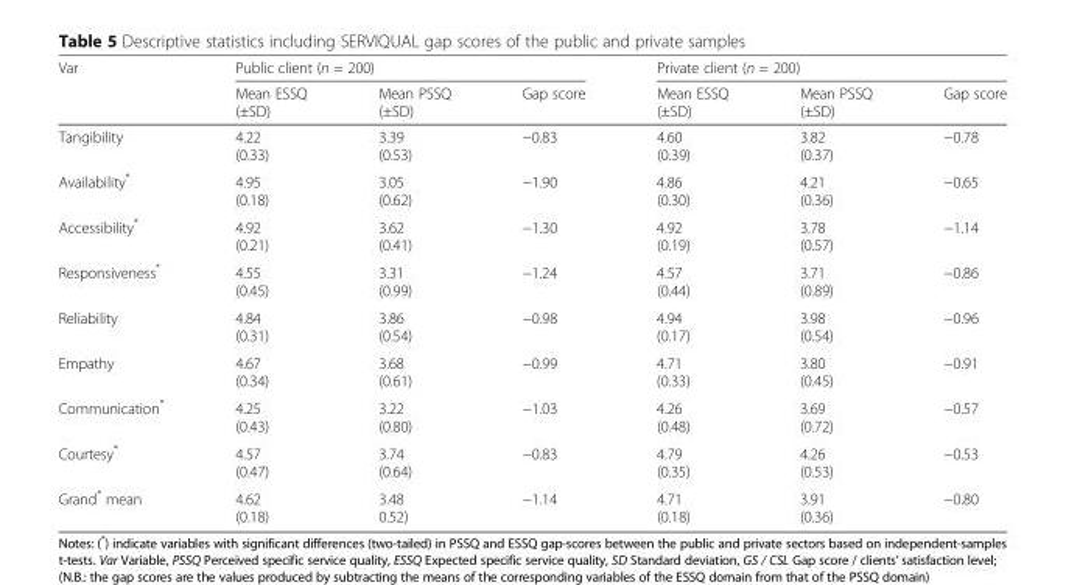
<table><thead><tr><td rowspan="2">Var</td><td colspan="3">Public client (n = 200)</td><td colspan="3">Private client (n = 200)</td></tr><tr><td>Mean ESSQ (±SD)</td><td>Mean PSSQ (±SD)</td><td>Gap score</td><td>Mean ESSQ (±SD)</td><td>Mean PSSQ (±SD)</td><td>Gap score</td></tr></thead><tbody><tr><td>Tangibility</td><td>4.22 (0.33)</td><td>3.39 (0.53)</td><td>−0.83</td><td>4.60 (0.39)</td><td>3.82 (0.37)</td><td>−0.78</td></tr><tr><td>Availability*</td><td>4.95 (0.18)</td><td>3.05 (0.62)</td><td>−1.90</td><td>4.86 (0.30)</td><td>4.21 (0.36)</td><td>−0.65</td></tr><tr><td>Accessibility*</td><td>4.92 (0.21)</td><td>3.62 (0.41)</td><td>−1.30</td><td>4.92 (0.19)</td><td>3.78 (0.57)</td><td>−1.14</td></tr><tr><td>Responsiveness*</td><td>4.55 (0.45)</td><td>3.31 (0.99)</td><td>−1.24</td><td>4.57 (0.44)</td><td>3.71 (0.89)</td><td>−0.86</td></tr><tr><td>Reliability</td><td>4.84 (0.31)</td><td>3.86 (0.54)</td><td>−0.98</td><td>4.94 (0.17)</td><td>3.98 (0.54)</td><td>−0.96</td></tr><tr><td>Empathy</td><td>4.67 (0.34)</td><td>3.68 (0.61)</td><td>−0.99</td><td>4.71 (0.33)</td><td>3.80 (0.45)</td><td>−0.91</td></tr><tr><td>Communication*</td><td>4.25 (0.43)</td><td>3.22 (0.80)</td><td>−1.03</td><td>4.26 (0.48)</td><td>3.69 (0.72)</td><td>−0.57</td></tr><tr><td>Courtesy*</td><td>4.57 (0.47)</td><td>3.74 (0.64)</td><td>−0.83</td><td>4.79 (0.35)</td><td>4.26 (0.53)</td><td>−0.53</td></tr><tr><td>Grand* mean</td><td>4.62 (0.18)</td><td>3.48 0.52)</td><td>−1.14</td><td>4.71 (0.18)</td><td>3.91 (0.36)</td><td>−0.80</td></tr></tbody></table>